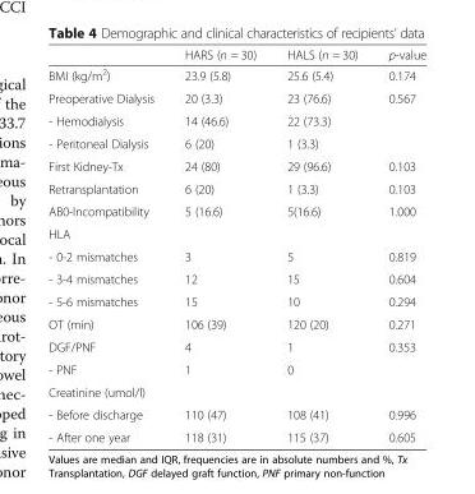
<table><thead><tr><td></td><td>HARS (n = 30)</td><td>HALS (n = 30)</td><td>p-value</td></tr></thead><tbody><tr><td>BMI (kg/m<sup>2</sup>)</td><td>23.9 (5.8)</td><td>25.6 (5.4)</td><td>0.174</td></tr><tr><td>Preoperative Dialysis</td><td>20 (3.3)</td><td>23 (76.6)</td><td>0.567</td></tr><tr><td>- Hemodialysis</td><td>14 (46.6)</td><td>22 (73.3)</td><td></td></tr><tr><td>- Peritoneal Dialysis</td><td>6 (20)</td><td>1 (3.3)</td><td></td></tr><tr><td>First Kidney-Tx</td><td>24 (80)</td><td>29 (96.6)</td><td>0.103</td></tr><tr><td>Retransplantation</td><td>6 (20)</td><td>1 (3.3)</td><td>0.103</td></tr><tr><td>AB0-Incompatibility</td><td>5 (16.6)</td><td>5(16.6)</td><td>1.000</td></tr><tr><td colspan="4">HLA</td></tr><tr><td>- 0-2 mismatches</td><td>3</td><td>5</td><td>0.819</td></tr><tr><td>- 3-4 mismatches</td><td>12</td><td>15</td><td>0.604</td></tr><tr><td>- 5-6 mismatches</td><td>15</td><td>10</td><td>0.294</td></tr><tr><td>OT (min)</td><td>106 (39)</td><td>120 (20)</td><td>0.271</td></tr><tr><td>DGF/PNF</td><td>4</td><td>1</td><td>0.353</td></tr><tr><td>- PNF</td><td>1</td><td>0</td><td></td></tr><tr><td colspan="4">Creatinine (umol/l)</td></tr><tr><td>- Before discharge</td><td>110 (47)</td><td>108 (41)</td><td>0.996</td></tr><tr><td>- After one year</td><td>118 (31)</td><td>115 (37)</td><td>0.605</td></tr></tbody></table>